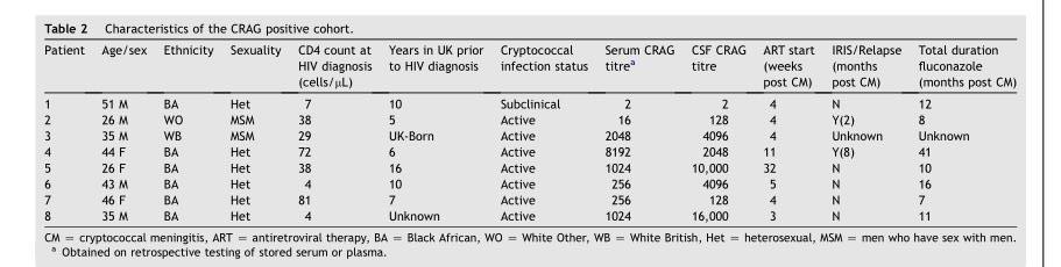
<table><thead><tr><td>Patient</td><td>Age/sex</td><td>Ethnicity</td><td>Sexuality</td><td>CD4 count at HIV diagnosis (cells/μL)</td><td>Years in UK prior to HIV diagnosis</td><td>Cryptococcal infection status</td><td>Serum CRAG titre<sup>a</sup></td><td>CSF CRAG titre</td><td>ART start (weeks post CM)</td><td>IRIS/Relapse (months post CM)</td><td>Total duration fluconazole (months post CM)</td></tr></thead><tbody><tr><td>1</td><td>51 M</td><td>BA</td><td>Het</td><td>7</td><td>10</td><td>Subclinical</td><td>2</td><td>2</td><td>4</td><td>N</td><td>12</td></tr><tr><td>2</td><td>26 M</td><td>WO</td><td>MSM</td><td>38</td><td>5</td><td>Active</td><td>16</td><td>128</td><td>4</td><td>Y(2)</td><td>8</td></tr><tr><td>3</td><td>35 M</td><td>WB</td><td>MSM</td><td>29</td><td>UK-Born</td><td>Active</td><td>2048</td><td>4096</td><td>4</td><td>Unknown</td><td>Unknown</td></tr><tr><td>4</td><td>44 F</td><td>BA</td><td>Het</td><td>72</td><td>6</td><td>Active</td><td>8192</td><td>2048</td><td>11</td><td>Y(8)</td><td>41</td></tr><tr><td>5</td><td>26 F</td><td>BA</td><td>Het</td><td>38</td><td>16</td><td>Active</td><td>1024</td><td>10,000</td><td>32</td><td>N</td><td>10</td></tr><tr><td>6</td><td>43 M</td><td>BA</td><td>Het</td><td>4</td><td>10</td><td>Active</td><td>256</td><td>4096</td><td>5</td><td>N</td><td>16</td></tr><tr><td>7</td><td>46 F</td><td>BA</td><td>Het</td><td>81</td><td>7</td><td>Active</td><td>256</td><td>128</td><td>4</td><td>N</td><td>7</td></tr><tr><td>8</td><td>35 M</td><td>BA</td><td>Het</td><td>4</td><td>Unknown</td><td>Active</td><td>1024</td><td>16,000</td><td>3</td><td>N</td><td>11</td></tr></tbody></table>